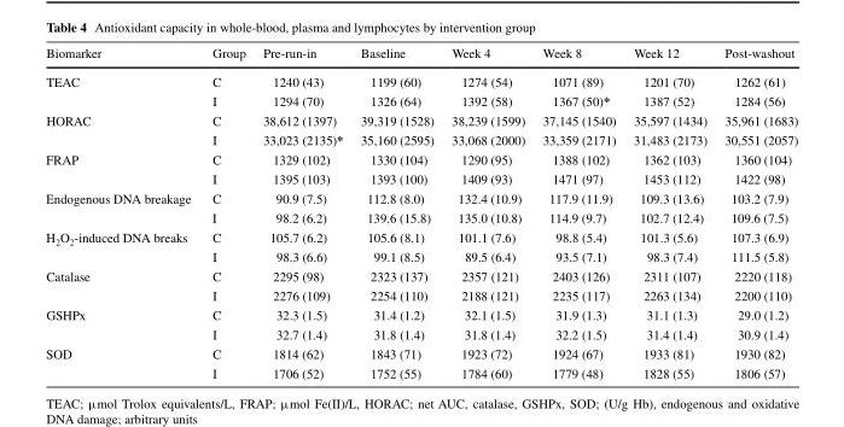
<table><thead><tr><td>Biomarker</td><td>Group</td><td>Pre-run-in</td><td>Baseline</td><td>Week 4</td><td>Week 8</td><td>Week 12</td><td>Post-washout</td></tr></thead><tbody><tr><td rowspan="2">TEAC</td><td>C</td><td>1240 (43)</td><td>1199 (60)</td><td>1274 (54)</td><td>1071 (89)</td><td>1201 (70)</td><td>1262 (61)</td></tr><tr><td>I</td><td>1294 (70)</td><td>1326 (64)</td><td>1392 (58)</td><td>1367 (50)*</td><td>1387 (52)</td><td>1284 (56)</td></tr><tr><td rowspan="2">HORAC</td><td>C</td><td>38,612 (1397)</td><td>39,319 (1528)</td><td>38,239 (1599)</td><td>37,145 (1540)</td><td>35,597 (1434)</td><td>35,961 (1683)</td></tr><tr><td>I</td><td>33,023 (2135)*</td><td>35,160 (2595)</td><td>33,068 (2000)</td><td>33,359 (2171)</td><td>31,483 (2173)</td><td>30,551 (2057)</td></tr><tr><td rowspan="2">FRAP</td><td>C</td><td>1329 (102)</td><td>1330 (104)</td><td>1290 (95)</td><td>1388 (102)</td><td>1362 (103)</td><td>1360 (104)</td></tr><tr><td>I</td><td>1395 (103)</td><td>1393 (100)</td><td>1409 (93)</td><td>1471 (97)</td><td>1453 (112)</td><td>1422 (98)</td></tr><tr><td rowspan="2">Endogenous DNA breakage</td><td>C</td><td>90.9 (7.5)</td><td>112.8 (8.0)</td><td>132.4 (10.9)</td><td>117.9 (11.9)</td><td>109.3 (13.6)</td><td>103.2 (7.9)</td></tr><tr><td>I</td><td>98.2 (6.2)</td><td>139.6 (15.8)</td><td>135.0 (10.8)</td><td>114.9 (9.7)</td><td>102.7 (12.4)</td><td>109.6 (7.5)</td></tr><tr><td rowspan="2">H<sub>2</sub>O<sub>2</sub>-induced DNA breaks</td><td>C</td><td>105.7 (6.2)</td><td>105.6 (8.1)</td><td>101.1 (7.6)</td><td>98.8 (5.4)</td><td>101.3 (5.6)</td><td>107.3 (6.9)</td></tr><tr><td>I</td><td>98.3 (6.6)</td><td>99.1 (8.5)</td><td>89.5 (6.4)</td><td>93.5 (7.1)</td><td>98.3 (7.4)</td><td>111.5 (5.8)</td></tr><tr><td rowspan="2">Catalase</td><td>C</td><td>2295 (98)</td><td>2323 (137)</td><td>2357 (121)</td><td>2403 (126)</td><td>2311 (107)</td><td>2220 (118)</td></tr><tr><td>I</td><td>2276 (109)</td><td>2254 (110)</td><td>2188 (121)</td><td>2235 (117)</td><td>2263 (134)</td><td>2200 (110)</td></tr><tr><td rowspan="2">GSHPx</td><td>C</td><td>32.3 (1.5)</td><td>31.4 (1.2)</td><td>32.1 (1.5)</td><td>31.9 (1.3)</td><td>31.1 (1.3)</td><td>29.0 (1.2)</td></tr><tr><td>I</td><td>32.7 (1.4)</td><td>31.8 (1.4)</td><td>31.8 (1.4)</td><td>32.2 (1.5)</td><td>31.4 (1.4)</td><td>30.9 (1.4)</td></tr><tr><td rowspan="2">SOD</td><td>C</td><td>1814 (62)</td><td>1843 (71)</td><td>1923 (72)</td><td>1924 (67)</td><td>1933 (81)</td><td>1930 (82)</td></tr><tr><td>I</td><td>1706 (52)</td><td>1752 (55)</td><td>1784 (60)</td><td>1779 (48)</td><td>1828 (55)</td><td>1806 (57)</td></tr></tbody></table>